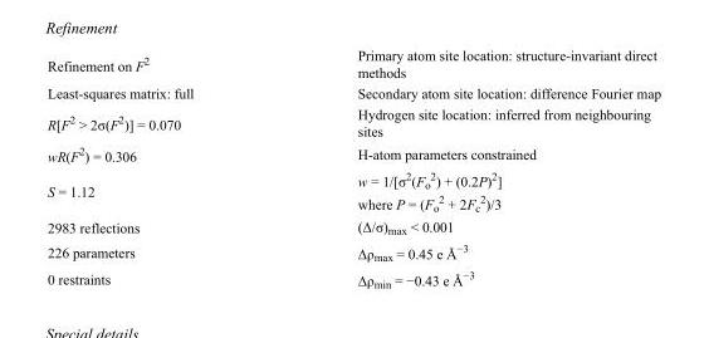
<table><tbody><tr><td>Refinement on F<sup>2</sup></td><td>Primary atom site location: structure-invariant direct methods</td></tr><tr><td>Least-squares matrix: full</td><td>Secondary atom site location: difference Fourier map</td></tr><tr><td>R[F<sup>2</sup> &gt; 2σ(F<sup>2</sup>)] = 0.070</td><td>Hydrogen site location: inferred from neighbouring sites</td></tr><tr><td>wR(F<sup>2</sup>) = 0.306</td><td>H-atom parameters constrained</td></tr><tr><td>S = 1.12</td><td>w = 1/[σ<sup>2</sup>(F<sub>o</sub> <sup>2</sup>) + (0.2P)<sup>2</sup>] where P = (F<sub>o</sub> <sup>2</sup> + 2F<sub>c</sub> <sup>2</sup>)/3</td></tr><tr><td>2983 reflections</td><td>(Δ/σ)<sub>max</sub> &lt; 0.001</td></tr><tr><td>226 parameters</td><td>Δρ<sub>max</sub> = 0.45 e Å<sup>−3</sup></td></tr><tr><td>0 restraints</td><td>Δρ<sub>min</sub> = −0.43 e Å<sup>−3</sup></td></tr></tbody></table>